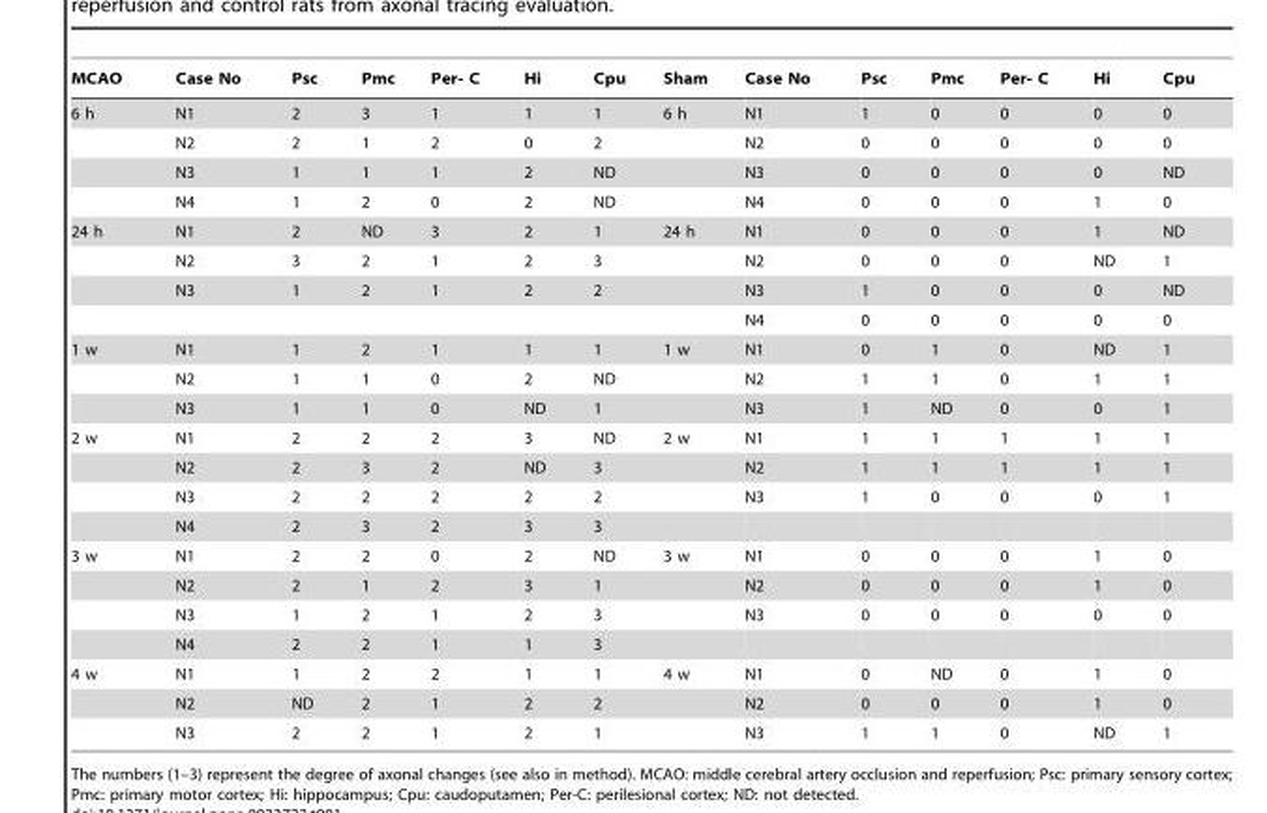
<table><thead><tr><td>MCAO</td><td>Case No</td><td>Psc</td><td>Pmc</td><td>Per- C</td><td>Hi</td><td>Cpu</td><td>Sham</td><td>Case No</td><td>Psc</td><td>Pmc</td><td>Per- C</td><td>Hi</td><td>Cpu</td></tr></thead><tbody><tr><td rowspan="4">6 h</td><td>N1</td><td>2</td><td>3</td><td>1</td><td>1</td><td>1</td><td>6 h</td><td>N1</td><td>1</td><td>0</td><td>0</td><td>0</td><td>0</td></tr><tr><td>N2</td><td>2</td><td>1</td><td>2</td><td>0</td><td>2</td><td></td><td>N2</td><td>0</td><td>0</td><td>0</td><td>0</td><td>0</td></tr><tr><td>N3</td><td>1</td><td>1</td><td>1</td><td>2</td><td>ND</td><td></td><td>N3</td><td>0</td><td>0</td><td>0</td><td>0</td><td>ND</td></tr><tr><td>N4</td><td>1</td><td>2</td><td>0</td><td>2</td><td>ND</td><td></td><td>N4</td><td>0</td><td>0</td><td>0</td><td>1</td><td>0</td></tr><tr><td rowspan="4">24 h</td><td>N1</td><td>2</td><td>ND</td><td>3</td><td>2</td><td>1</td><td>24 h</td><td>N1</td><td>0</td><td>0</td><td>0</td><td>1</td><td>ND</td></tr><tr><td>N2</td><td>3</td><td>2</td><td>1</td><td>2</td><td>3</td><td></td><td>N2</td><td>0</td><td>0</td><td>0</td><td>ND</td><td>1</td></tr><tr><td>N3</td><td>1</td><td>2</td><td>1</td><td>2</td><td>2</td><td></td><td>N3</td><td>1</td><td>0</td><td>0</td><td>0</td><td>ND</td></tr><tr><td></td><td></td><td></td><td></td><td></td><td></td><td></td><td>N4</td><td>0</td><td>0</td><td>0</td><td>0</td><td>0</td></tr><tr><td rowspan="3">1 w</td><td>N1</td><td>1</td><td>2</td><td>1</td><td>1</td><td>1</td><td>1 w</td><td>N1</td><td>0</td><td>1</td><td>0</td><td>ND</td><td>1</td></tr><tr><td>N2</td><td>1</td><td>1</td><td>0</td><td>2</td><td>ND</td><td></td><td>N2</td><td>1</td><td>1</td><td>0</td><td>1</td><td>1</td></tr><tr><td>N3</td><td>1</td><td>1</td><td>0</td><td>ND</td><td>1</td><td></td><td>N3</td><td>1</td><td>ND</td><td>0</td><td>0</td><td>1</td></tr><tr><td rowspan="4">2 w</td><td>N1</td><td>2</td><td>2</td><td>2</td><td>3</td><td>ND</td><td>2 w</td><td>N1</td><td>1</td><td>1</td><td>1</td><td>1</td><td>1</td></tr><tr><td>N2</td><td>2</td><td>3</td><td>2</td><td>ND</td><td>3</td><td></td><td>N2</td><td>1</td><td>1</td><td>1</td><td>1</td><td>1</td></tr><tr><td>N3</td><td>2</td><td>2</td><td>2</td><td>2</td><td>2</td><td></td><td>N3</td><td>1</td><td>0</td><td>0</td><td>0</td><td>1</td></tr><tr><td>N4</td><td>2</td><td>3</td><td>2</td><td>3</td><td>3</td><td></td><td></td><td></td><td></td><td></td><td></td><td></td></tr><tr><td rowspan="4">3 w</td><td>N1</td><td>2</td><td>2</td><td>0</td><td>2</td><td>ND</td><td>3 w</td><td>N1</td><td>0</td><td>0</td><td>0</td><td>1</td><td>0</td></tr><tr><td>N2</td><td>2</td><td>1</td><td>2</td><td>3</td><td>1</td><td></td><td>N2</td><td>0</td><td>0</td><td>0</td><td>1</td><td>0</td></tr><tr><td>N3</td><td>1</td><td>2</td><td>1</td><td>2</td><td>3</td><td></td><td>N3</td><td>0</td><td>0</td><td>0</td><td>0</td><td>0</td></tr><tr><td>N4</td><td>2</td><td>2</td><td>1</td><td>1</td><td>3</td><td></td><td></td><td></td><td></td><td></td><td></td><td></td></tr><tr><td rowspan="3">4 w</td><td>N1</td><td>1</td><td>2</td><td>2</td><td>1</td><td>1</td><td>4 w</td><td>N1</td><td>0</td><td>ND</td><td>0</td><td>1</td><td>0</td></tr><tr><td>N2</td><td>ND</td><td>2</td><td>1</td><td>2</td><td>2</td><td></td><td>N2</td><td>0</td><td>0</td><td>0</td><td>1</td><td>0</td></tr><tr><td>N3</td><td>2</td><td>2</td><td>1</td><td>2</td><td>1</td><td></td><td>N3</td><td>1</td><td>1</td><td>0</td><td>ND</td><td>1</td></tr></tbody></table>